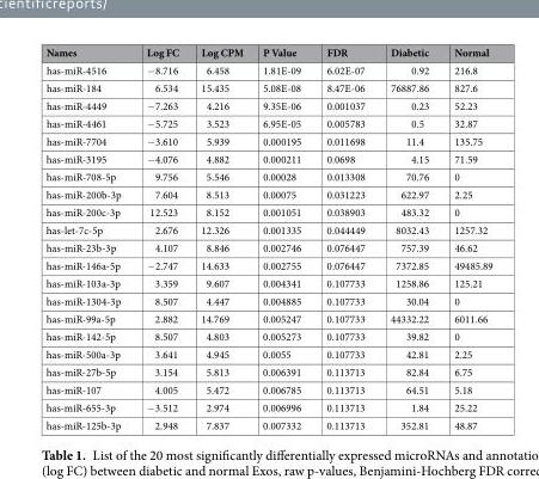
<table><thead><tr><td>Names</td><td>Log FC</td><td>Log CPM</td><td>P Value</td><td>FDR</td><td>Diabetic</td><td>Normal</td></tr></thead><tbody><tr><td>has-miR-4516</td><td>−8.716</td><td>6.458</td><td>1.81E-09</td><td>6.02E-07</td><td>0.92</td><td>216.8</td></tr><tr><td>has-miR-184</td><td>6.534</td><td>15.435</td><td>5.08E-08</td><td>8.47E-06</td><td>76887.86</td><td>827.6</td></tr><tr><td>has-miR-4449</td><td>−7.263</td><td>4.216</td><td>9.35E-06</td><td>0.001037</td><td>0.23</td><td>52.23</td></tr><tr><td>has-miR-4461</td><td>−5.725</td><td>3.523</td><td>6.95E-05</td><td>0.005783</td><td>0.5</td><td>32.87</td></tr><tr><td>has-miR-7704</td><td>−3.610</td><td>5.939</td><td>0.000195</td><td>0.011698</td><td>11.4</td><td>135.75</td></tr><tr><td>has-miR-3195</td><td>−4.076</td><td>4.882</td><td>0.000211</td><td>0.0698</td><td>4.15</td><td>71.59</td></tr><tr><td>has-miR-708-5p</td><td>9.756</td><td>5.546</td><td>0.00028</td><td>0.013308</td><td>70.76</td><td>0</td></tr><tr><td>has-miR-200b-3p</td><td>7.604</td><td>8.513</td><td>0.00075</td><td>0.031223</td><td>622.97</td><td>2.25</td></tr><tr><td>has-miR-200c-3p</td><td>12.523</td><td>8.152</td><td>0.001051</td><td>0.038903</td><td>483.32</td><td>0</td></tr><tr><td>has-let-7c-5p</td><td>2.676</td><td>12.326</td><td>0.001335</td><td>0.044449</td><td>8032.43</td><td>1257.32</td></tr><tr><td>has-miR-23b-3p</td><td>4.107</td><td>8.846</td><td>0.002746</td><td>0.076447</td><td>757.39</td><td>46.62</td></tr><tr><td>has-miR-146a-5p</td><td>−2.747</td><td>14.633</td><td>0.002755</td><td>0.076447</td><td>7372.85</td><td>49485.89</td></tr><tr><td>has-miR-103a-3p</td><td>3.359</td><td>9.607</td><td>0.004341</td><td>0.107733</td><td>1258.86</td><td>125.21</td></tr><tr><td>has-miR-1304-3p</td><td>8.507</td><td>4.447</td><td>0.004885</td><td>0.107733</td><td>30.04</td><td>0</td></tr><tr><td>has-miR-99a-5p</td><td>2.882</td><td>14.769</td><td>0.005247</td><td>0.107733</td><td>44332.22</td><td>6011.66</td></tr><tr><td>has-miR-142-5p</td><td>8.507</td><td>4.803</td><td>0.005273</td><td>0.107733</td><td>39.82</td><td>0</td></tr><tr><td>has-miR-500a-3p</td><td>3.641</td><td>4.945</td><td>0.0055</td><td>0.107733</td><td>42.81</td><td>2.25</td></tr><tr><td>has-miR-27b-5p</td><td>3.154</td><td>5.813</td><td>0.006391</td><td>0.113713</td><td>82.84</td><td>6.75</td></tr><tr><td>has-miR-107</td><td>4.005</td><td>5.472</td><td>0.006785</td><td>0.113713</td><td>64.51</td><td>5.18</td></tr><tr><td>has-miR-655-3p</td><td>−3.512</td><td>2.974</td><td>0.006996</td><td>0.113713</td><td>1.84</td><td>25.22</td></tr><tr><td>has-miR-125b-3p</td><td>2.948</td><td>7.837</td><td>0.007332</td><td>0.113713</td><td>352.81</td><td>48.87</td></tr></tbody></table>